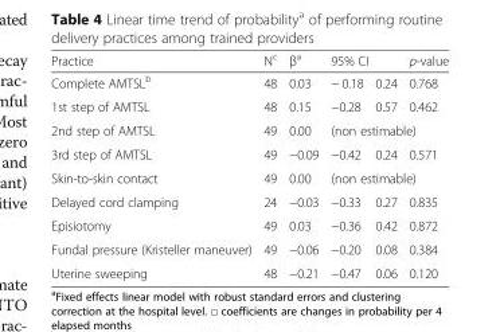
<table><thead><tr><td rowspan="2">Practice Complete AMTSL<sup>b</sup></td><td rowspan="2">N<sup>c</sup> 48</td><td rowspan="2">β<sup>a</sup> 0.03</td><td colspan="2">95% CI</td><td rowspan="2">p-value 0.768</td></tr><tr><td>− 0.18</td><td>0.24</td></tr></thead><tbody><tr><td>1st step of AMTSL</td><td>48</td><td>0.15</td><td>−0.28</td><td>0.57</td><td>0.462</td></tr><tr><td>2nd step of AMTSL</td><td>49</td><td>0.00</td><td colspan="3">(non estimable)</td></tr><tr><td>3rd step of AMTSL</td><td>49</td><td>−0.09</td><td>−0.42</td><td>0.24</td><td>0.571</td></tr><tr><td>Skin-to-skin contact</td><td>49</td><td>0.00</td><td colspan="3">(non estimable)</td></tr><tr><td>Delayed cord clamping</td><td>24</td><td>−0.03</td><td>−0.33</td><td>0.27</td><td>0.835</td></tr><tr><td>Episiotomy</td><td>49</td><td>0.03</td><td>−0.36</td><td>0.42</td><td>0.872</td></tr><tr><td>Fundal pressure (Kristeller maneuver)</td><td>49</td><td>−0.06</td><td>−0.20</td><td>0.08</td><td>0.384</td></tr><tr><td>Uterine sweeping</td><td>48</td><td>−0.21</td><td>−0.47</td><td>0.06</td><td>0.120</td></tr></tbody></table>